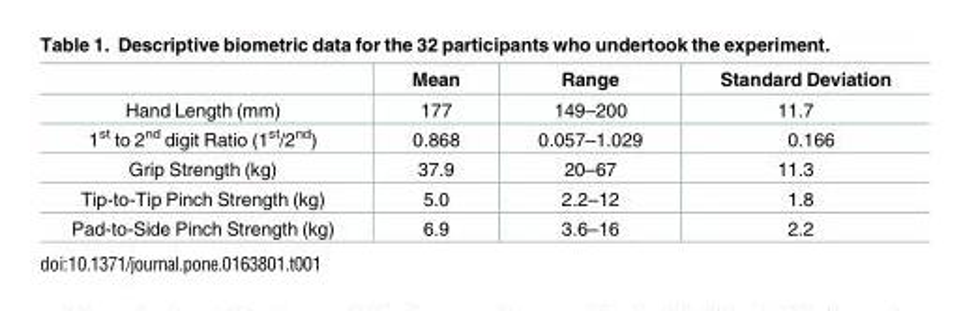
<table><thead><tr><td></td><td>Mean</td><td>Range</td><td>Standard Deviation</td></tr></thead><tbody><tr><td>Hand Length (mm)</td><td>177</td><td>149–200</td><td>11.7</td></tr><tr><td>1<sup>st</sup> to 2<sup>nd</sup> digit Ratio (1<sup>st</sup>/2<sup>nd</sup>)</td><td>0.868</td><td>0.057–1.029</td><td>0.166</td></tr><tr><td>Grip Strength (kg)</td><td>37.9</td><td>20–67</td><td>11.3</td></tr><tr><td>Tip-to-Tip Pinch Strength (kg)</td><td>5.0</td><td>2.2–12</td><td>1.8</td></tr><tr><td>Pad-to-Side Pinch Strength (kg)</td><td>6.9</td><td>3.6–16</td><td>2.2</td></tr></tbody></table>